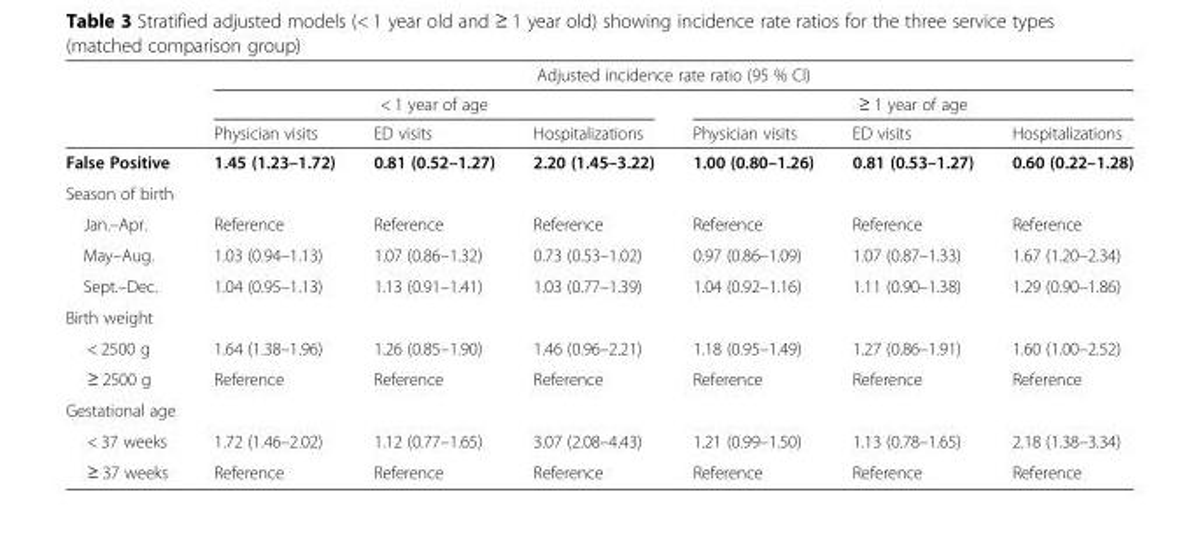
<table><thead><tr><td rowspan="3"></td><td colspan="6">Adjusted incidence rate ratio (95 % CI)</td></tr><tr><td colspan="3">&lt; 1 year of age</td><td colspan="3">≥ 1 year of age</td></tr><tr><td>Physician visits</td><td>ED visits</td><td>Hospitalizations</td><td>Physician visits</td><td>ED visits</td><td>Hospitalizations</td></tr></thead><tbody><tr><td>False Positive</td><td>1.45 (1.23–1.72)</td><td>0.81 (0.52–1.27)</td><td>2.20 (1.45–3.22)</td><td>1.00 (0.80–1.26)</td><td>0.81 (0.53–1.27)</td><td>0.60 (0.22–1.28)</td></tr><tr><td colspan="7">Season of birth</td></tr><tr><td>Jan.–Apr.</td><td>Reference</td><td>Reference</td><td>Reference</td><td>Reference</td><td>Reference</td><td>Reference</td></tr><tr><td>May–Aug.</td><td>1.03 (0.94–1.13)</td><td>1.07 (0.86–1.32)</td><td>0.73 (0.53–1.02)</td><td>0.97 (0.86–1.09)</td><td>1.07 (0.87–1.33)</td><td>1.67 (1.20–2.34)</td></tr><tr><td>Sept.–Dec.</td><td>1.04 (0.95–1.13)</td><td>1.13 (0.91–1.41)</td><td>1.03 (0.77–1.39)</td><td>1.04 (0.92–1.16)</td><td>1.11 (0.90–1.38)</td><td>1.29 (0.90–1.86)</td></tr><tr><td colspan="7">Birth weight</td></tr><tr><td>&lt; 2500 g</td><td>1.64 (1.38–1.96)</td><td>1.26 (0.85–1.90)</td><td>1.46 (0.96–2.21)</td><td>1.18 (0.95–1.49)</td><td>1.27 (0.86–1.91)</td><td>1.60 (1.00–2.52)</td></tr><tr><td>≥ 2500 g</td><td>Reference</td><td>Reference</td><td>Reference</td><td>Reference</td><td>Reference</td><td>Reference</td></tr><tr><td colspan="7">Gestational age</td></tr><tr><td>&lt; 37 weeks</td><td>1.72 (1.46–2.02)</td><td>1.12 (0.77–1.65)</td><td>3.07 (2.08–4.43)</td><td>1.21 (0.99–1.50)</td><td>1.13 (0.78–1.65)</td><td>2.18 (1.38–3.34)</td></tr><tr><td>≥ 37 weeks</td><td>Reference</td><td>Reference</td><td>Reference</td><td>Reference</td><td>Reference</td><td>Reference</td></tr></tbody></table>